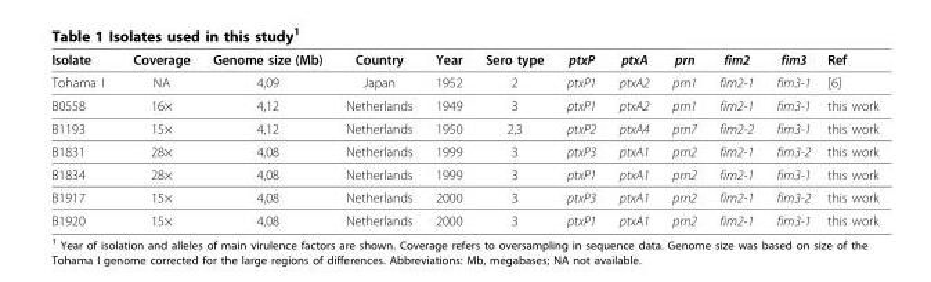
<table><thead><tr><td>Isolate</td><td>Coverage</td><td>Genome size (Mb)</td><td>Country</td><td>Year</td><td>Sero type</td><td>ptxP</td><td>ptxA</td><td>prn</td><td>fim2</td><td>fim3</td><td>Ref</td></tr></thead><tbody><tr><td>Tohama I</td><td>NA</td><td>4,09</td><td>Japan</td><td>1952</td><td>2</td><td>ptxP1</td><td>ptxA2</td><td>prn1</td><td>fim2-1</td><td>fim3-1</td><td>[6]</td></tr><tr><td>B0558</td><td>16×</td><td>4,12</td><td>Netherlands</td><td>1949</td><td>3</td><td>ptxP1</td><td>ptxA2</td><td>prn1</td><td>fim2-1</td><td>fim3-1</td><td>this work</td></tr><tr><td>B1193</td><td>15×</td><td>4,12</td><td>Netherlands</td><td>1950</td><td>2,3</td><td>ptxP2</td><td>ptxA4</td><td>prn7</td><td>fim2-2</td><td>fim3-1</td><td>this work</td></tr><tr><td>B1831</td><td>28×</td><td>4,08</td><td>Netherlands</td><td>1999</td><td>3</td><td>ptxP3</td><td>ptxA1</td><td>prn2</td><td>fim2-1</td><td>fim3-2</td><td>this work</td></tr><tr><td>B1834</td><td>28×</td><td>4,08</td><td>Netherlands</td><td>1999</td><td>3</td><td>ptxP1</td><td>ptxA1</td><td>prn2</td><td>fim2-1</td><td>fim3-1</td><td>this work</td></tr><tr><td>B1917</td><td>15×</td><td>4,08</td><td>Netherlands</td><td>2000</td><td>3</td><td>ptxP3</td><td>ptxA1</td><td>prn2</td><td>fim2-1</td><td>fim3-2</td><td>this work</td></tr><tr><td>B1920</td><td>15×</td><td>4,08</td><td>Netherlands</td><td>2000</td><td>3</td><td>ptxP1</td><td>ptxA1</td><td>prn2</td><td>fim2-1</td><td>fim3-1</td><td>this work</td></tr></tbody></table>